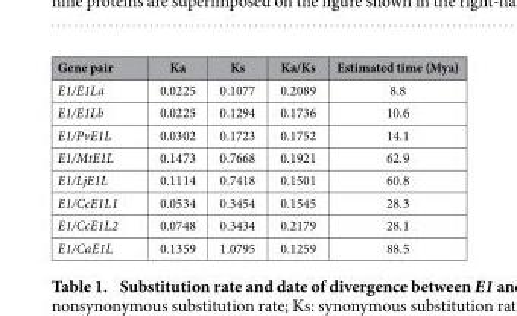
<table><thead><tr><td>Gene pair</td><td>Ka</td><td>Ks</td><td>Ka/Ks</td><td>Estimated time (Mya)</td></tr></thead><tbody><tr><td>E1/E1La</td><td>0.0225</td><td>0.1077</td><td>0.2089</td><td>8.8</td></tr><tr><td>E1/E1Lb</td><td>0.0225</td><td>0.1294</td><td>0.1736</td><td>10.6</td></tr><tr><td>E1/PvE1L</td><td>0.0302</td><td>0.1723</td><td>0.1752</td><td>14.1</td></tr><tr><td>E1/MtE1L</td><td>0.1473</td><td>0.7668</td><td>0.1921</td><td>62.9</td></tr><tr><td>E1/LjE1L</td><td>0.1114</td><td>0.7418</td><td>0.1501</td><td>60.8</td></tr><tr><td>E1/CcE1L1</td><td>0.0534</td><td>0.3454</td><td>0.1545</td><td>28.3</td></tr><tr><td>E1/CcE1L2</td><td>0.0748</td><td>0.3434</td><td>0.2179</td><td>28.1</td></tr><tr><td>E1/CaE1L</td><td>0.1359</td><td>1.0795</td><td>0.1259</td><td>88.5</td></tr></tbody></table>